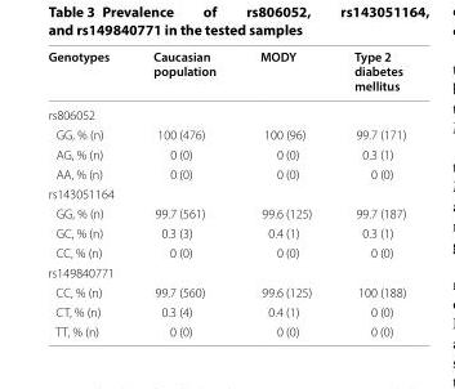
<table><thead><tr><td>Genotypes</td><td>Caucasian population</td><td>MODY</td><td>Type 2 diabetes mellitus</td></tr></thead><tbody><tr><td colspan="4">rs806052</td></tr><tr><td>GG, % (n)</td><td>100 (476)</td><td>100 (96)</td><td>99.7 (171)</td></tr><tr><td>AG, % (n)</td><td>0 (0)</td><td>0 (0)</td><td>0.3 (1)</td></tr><tr><td>AA, % (n)</td><td>0 (0)</td><td>0 (0)</td><td>0 (0)</td></tr><tr><td colspan="4">rs143051164</td></tr><tr><td>GG, % (n)</td><td>99.7 (561)</td><td>99.6 (125)</td><td>99.7 (187)</td></tr><tr><td>GC, % (n)</td><td>0.3 (3)</td><td>0.4 (1)</td><td>0.3 (1)</td></tr><tr><td>CC, % (n)</td><td>0 (0)</td><td>0 (0)</td><td>0 (0)</td></tr><tr><td colspan="4">rs149840771</td></tr><tr><td>CC, % (n)</td><td>99.7 (560)</td><td>99.6 (125)</td><td>100 (188)</td></tr><tr><td>CT, % (n)</td><td>0.3 (4)</td><td>0.4 (1)</td><td>0 (0)</td></tr><tr><td>TT, % (n)</td><td>0 (0)</td><td>0 (0)</td><td>0 (0)</td></tr></tbody></table>